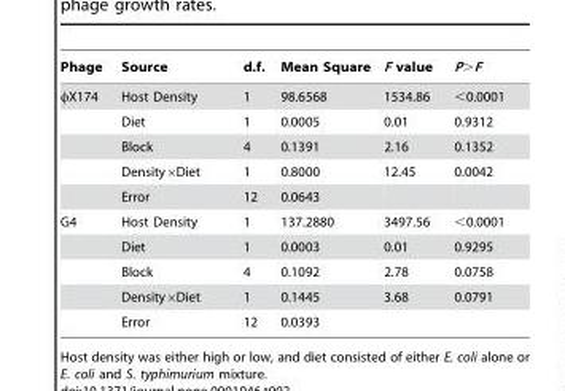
<table><thead><tr><td>Phage</td><td>Source</td><td>d.f.</td><td>Mean Square</td><td>F value</td><td>P&gt;F</td></tr></thead><tbody><tr><td rowspan="5">φX174</td><td>Host Density</td><td>1</td><td>98.6568</td><td>1534.86</td><td>&lt;0.0001</td></tr><tr><td>Diet</td><td>1</td><td>0.0005</td><td>0.01</td><td>0.9312</td></tr><tr><td>Block</td><td>4</td><td>0.1391</td><td>2.16</td><td>0.1352</td></tr><tr><td>Density×Diet</td><td>1</td><td>0.8000</td><td>12.45</td><td>0.0042</td></tr><tr><td>Error</td><td>12</td><td>0.0643</td><td></td><td></td></tr><tr><td rowspan="5">G4</td><td>Host Density</td><td>1</td><td>137.2880</td><td>3497.56</td><td>&lt;0.0001</td></tr><tr><td>Diet</td><td>1</td><td>0.0003</td><td>0.01</td><td>0.9295</td></tr><tr><td>Block</td><td>4</td><td>0.1092</td><td>2.78</td><td>0.0758</td></tr><tr><td>Density×Diet</td><td>1</td><td>0.1445</td><td>3.68</td><td>0.0791</td></tr><tr><td>Error</td><td>12</td><td>0.0393</td><td></td><td></td></tr></tbody></table>